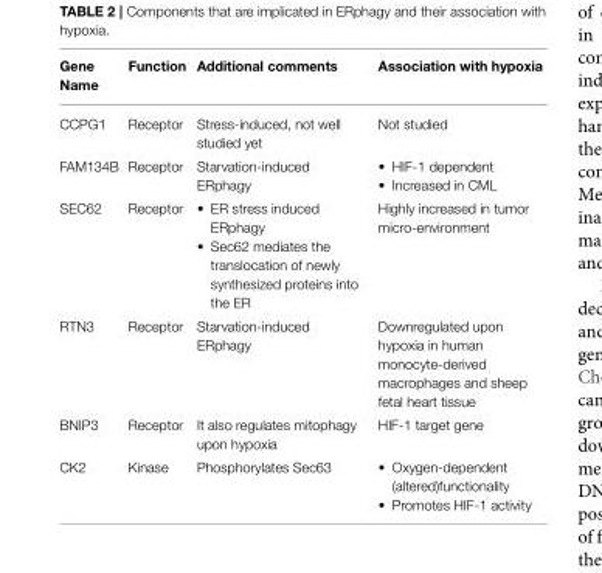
<table><thead><tr><td>Gene Name</td><td>Function</td><td>Additional comments</td><td>Association with hypoxia</td></tr></thead><tbody><tr><td>CCPG1</td><td>Receptor</td><td>Stress-induced, not well studied yet</td><td>Not studied</td></tr><tr><td>FAM134B</td><td>Receptor</td><td>Starvation-induced ERphagy</td><td>• HIF-1 dependent • Increased in CML</td></tr><tr><td>SEC62</td><td>Receptor</td><td>• ER stress induced ERphagy • Sec62 mediates the translocation of newly synthesized proteins into the ER</td><td>Highly increased in tumor micro-environment</td></tr><tr><td>RTN3</td><td>Receptor</td><td>Starvation-induced ERphagy</td><td>Downregulated upon hypoxia in human monocyte-derived macrophages and sheep fetal heart tissue</td></tr><tr><td>BNIP3</td><td>Receptor</td><td>It also regulates mitophagy upon hypoxia</td><td>HIF-1 target gene</td></tr><tr><td>CK2</td><td>Kinase</td><td>Phosphorylates Sec63</td><td>• Oxygen-dependent (altered)functionality • Promotes HIF-1 activity</td></tr></tbody></table>